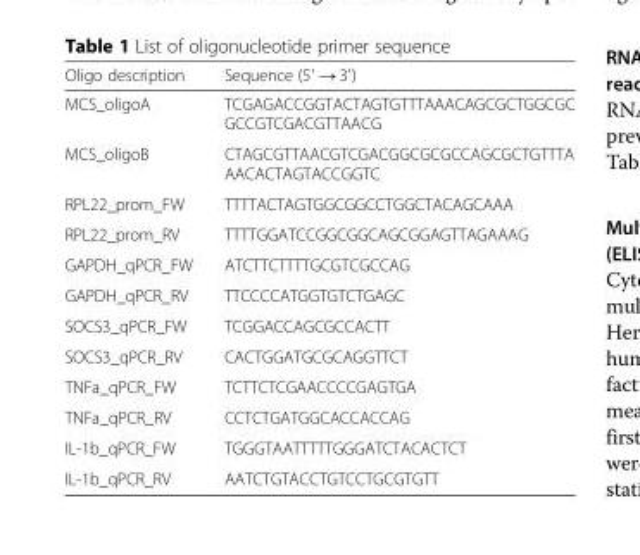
<table><thead><tr><td>Oligo description</td><td>Sequence (5′ → 3′)</td></tr></thead><tbody><tr><td>MCS_oligoA</td><td>TCGAGACCGGTACTAGTGTTTAAACAGCGCTGGCGC GCCGTCGACGTTAACG</td></tr><tr><td>MCS_oligoB</td><td>CTAGCGTTAACGTCGACGGCGCGCCAGCGCTGTTTA AACACTAGTACCGGTC</td></tr><tr><td>RPL22_prom_FW</td><td>TTTTACTAGTGGCGGCCTGGCTACAGCAAA</td></tr><tr><td>RPL22_prom_RV</td><td>TTTTGGATCCGGCGGCAGCGGAGTTAGAAAG</td></tr><tr><td>GAPDH_qPCR_FW</td><td>ATCTTCTTTTGCGTCGCCAG</td></tr><tr><td>GAPDH_qPCR_RV</td><td>TTCCCCATGGTGTCTGAGC</td></tr><tr><td>SOCS3_qPCR_FW</td><td>TCGGACCAGCGCCACTT</td></tr><tr><td>SOCS3_qPCR_RV</td><td>CACTGGATGCGCAGGTTCT</td></tr><tr><td>TNFa_qPCR_FW</td><td>TCTTCTCGAACCCCGAGTGA</td></tr><tr><td>TNFa_qPCR_RV</td><td>CCTCTGATGGCACCACCAG</td></tr><tr><td>IL-1b_qPCR_FW</td><td>TGGGTAATTTTTGGGATCTACACTCT</td></tr><tr><td>IL-1b_qPCR_RV</td><td>AATCTGTACCTGTCCTGCGTGTT</td></tr></tbody></table>